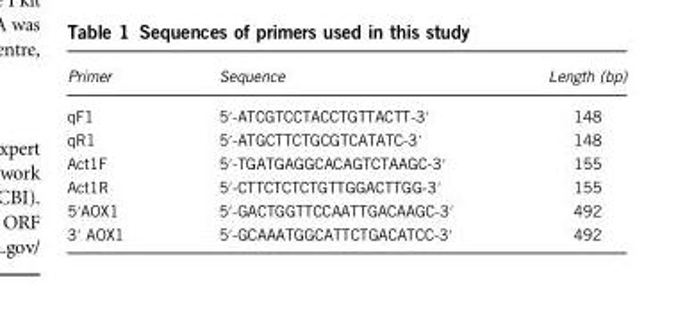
<table><thead><tr><td>Primer</td><td>Sequence</td><td>Length (bp)</td></tr></thead><tbody><tr><td>qF1</td><td>5′-ATCGTCCTACCTGTTACTT-3′</td><td>148</td></tr><tr><td>qR1</td><td>5′-ATGCTTCTGCGTCATATC-3′</td><td>148</td></tr><tr><td>Act1F</td><td>5′-TGATGAGGCACAGTCTAAGC-3′</td><td>155</td></tr><tr><td>Act1R</td><td>5′-CTTCTCTCTGTTGGACTTGG-3′</td><td>155</td></tr><tr><td>5′AOX1</td><td>5′-GACTGGTTCCAATTGACAAGC-3′</td><td>492</td></tr><tr><td>3′ AOX1</td><td>5′-GCAAATGGCATTCTGACATCC-3′</td><td>492</td></tr></tbody></table>